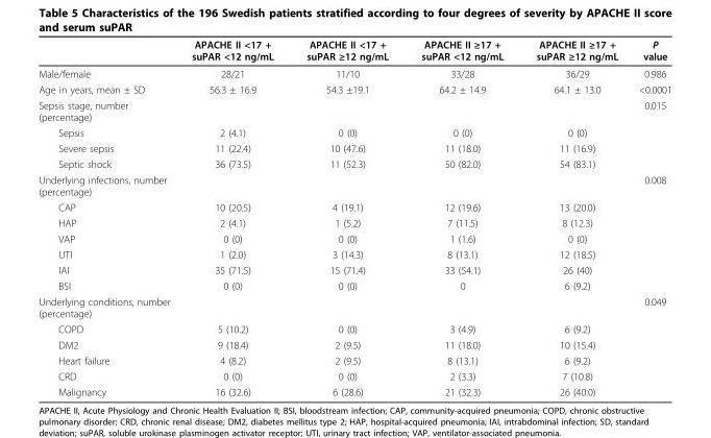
<table><thead><tr><td></td><td>APACHE II &lt;17 + suPAR &lt;12 ng/mL</td><td>APACHE II &lt;17 + suPAR ≥12 ng/mL</td><td>APACHE II ≥17 + suPAR &lt;12 ng/mL</td><td>APACHE II ≥17 + suPAR ≥12 ng/mL</td><td>P value</td></tr></thead><tbody><tr><td>Male/female</td><td>28/21</td><td>11/10</td><td>33/28</td><td>36/29</td><td>0.986</td></tr><tr><td>Age in years, mean ± SD</td><td>56.3 ± 16.9</td><td>54.3 ±19.1</td><td>64.2 ± 14.9</td><td>64.1 ± 13.0</td><td>&lt;0.0001</td></tr><tr><td>Sepsis stage, number (percentage)</td><td></td><td></td><td></td><td></td><td>0.015</td></tr><tr><td>Sepsis</td><td>2 (4.1)</td><td>0 (0)</td><td>0 (0)</td><td>0 (0)</td><td></td></tr><tr><td>Severe sepsis</td><td>11 (22.4)</td><td>10 (47.6)</td><td>11 (18.0)</td><td>11 (16.9)</td><td></td></tr><tr><td>Septic shock</td><td>36 (73.5)</td><td>11 (52.3)</td><td>50 (82.0)</td><td>54 (83.1)</td><td></td></tr><tr><td>Underlying infections, number (percentage)</td><td></td><td></td><td></td><td></td><td>0.008</td></tr><tr><td>CAP</td><td>10 (20.5)</td><td>4 (19.1)</td><td>12 (19.6)</td><td>13 (20.0)</td><td></td></tr><tr><td>HAP</td><td>2 (4.1)</td><td>1 (5.2)</td><td>7 (11.5)</td><td>8 (12.3)</td><td></td></tr><tr><td>VAP</td><td>0 (0)</td><td>0 (0)</td><td>1 (1.6)</td><td>0 (0)</td><td></td></tr><tr><td>UTI</td><td>1 (2.0)</td><td>3 (14.3)</td><td>8 (13.1)</td><td>12 (18.5)</td><td></td></tr><tr><td>IAI</td><td>35 (71.5)</td><td>15 (71.4)</td><td>33 (54.1)</td><td>26 (40)</td><td></td></tr><tr><td>BSI</td><td>0 (0)</td><td>0 (0)</td><td>0</td><td>6 (9.2)</td><td></td></tr><tr><td>Underlying conditions, number (percentage)</td><td></td><td></td><td></td><td></td><td>0.049</td></tr><tr><td>COPD</td><td>5 (10.2)</td><td>0 (0)</td><td>3 (4.9)</td><td>6 (9.2)</td><td></td></tr><tr><td>DM2</td><td>9 (18.4)</td><td>2 (9.5)</td><td>11 (18.0)</td><td>10 (15.4)</td><td></td></tr><tr><td>Heart failure</td><td>4 (8.2)</td><td>2 (9.5)</td><td>8 (13.1)</td><td>6 (9.2)</td><td></td></tr><tr><td>CRD</td><td>0 (0)</td><td>0 (0)</td><td>2 (3.3)</td><td>7 (10.8)</td><td></td></tr><tr><td>Malignancy</td><td>16 (32.6)</td><td>6 (28.6)</td><td>21 (32.3)</td><td>26 (40.0)</td><td></td></tr></tbody></table>